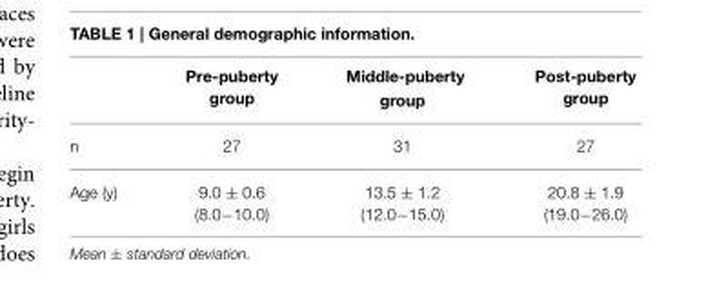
<table><thead><tr><td></td><td>Pre-puberty group</td><td>Middle-puberty group</td><td>Post-puberty group</td></tr></thead><tbody><tr><td>n</td><td>27</td><td>31</td><td>27</td></tr><tr><td>Age (y)</td><td>9.0 ± 0.6 (8.0−10.0)</td><td>13.5 ± 1.2 (12.0−15.0)</td><td>20.8 ± 1.9 (19.0−26.0)</td></tr></tbody></table>